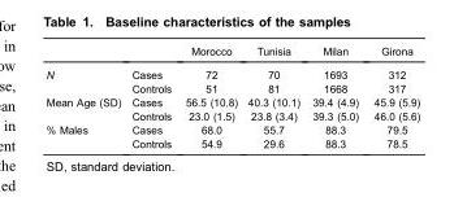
<table><thead><tr><td></td><td></td><td>Morocco</td><td>Tunisia</td><td>Milan</td><td>Girona</td></tr></thead><tbody><tr><td rowspan="2">N</td><td>Cases</td><td>72</td><td>70</td><td>1693</td><td>312</td></tr><tr><td>Controls</td><td>51</td><td>81</td><td>1668</td><td>317</td></tr><tr><td rowspan="2">Mean Age (SD)</td><td>Cases</td><td>56.5 (10.8)</td><td>40.3 (10.1)</td><td>39.4 (4.9)</td><td>45.9 (5.9)</td></tr><tr><td>Controls</td><td>23.0 (1.5)</td><td>23.8 (3.4)</td><td>39.3 (5.0)</td><td>46.0 (5.6)</td></tr><tr><td rowspan="2">% Males</td><td>Cases</td><td>68.0</td><td>55.7</td><td>88.3</td><td>79.5</td></tr><tr><td>Controls</td><td>54.9</td><td>29.6</td><td>88.3</td><td>78.5</td></tr></tbody></table>